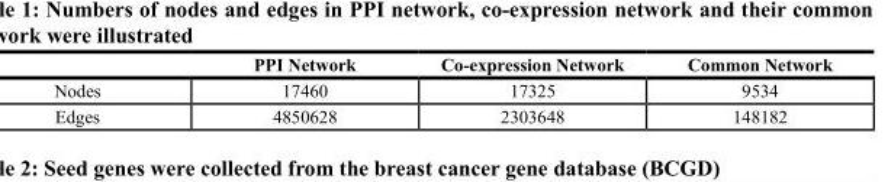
<table><thead><tr><td></td><td>PPI Network</td><td>Co-expression Network</td><td>Common Network</td></tr></thead><tbody><tr><td>Nodes</td><td>17460</td><td>17325</td><td>9534</td></tr><tr><td>Edges</td><td>4850628</td><td>2303648</td><td>148182</td></tr></tbody></table>